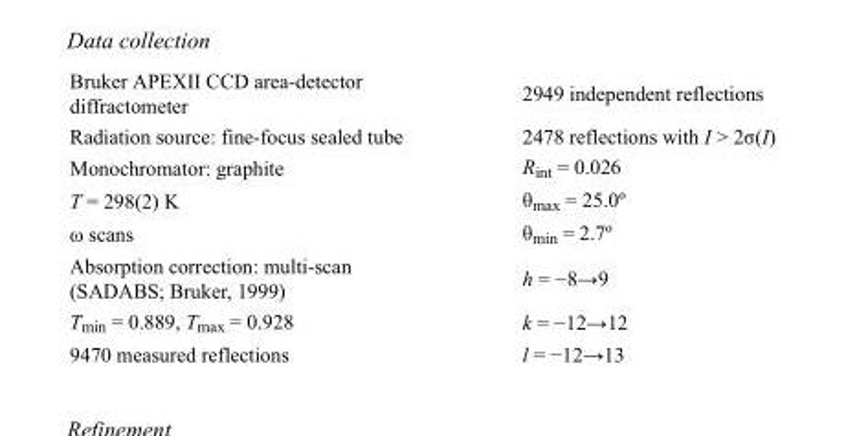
<table><tbody><tr><td>Bruker APEXII CCD area-detector diffractometer</td><td>2949 independent reflections</td></tr><tr><td>Radiation source: fine-focus sealed tube</td><td>2478 reflections with I &gt; 2σ(I)</td></tr><tr><td>Monochromator: graphite</td><td>R<sub>int</sub> = 0.026</td></tr><tr><td>T = 298(2) K</td><td>θ<sub>max</sub> = 25.0º</td></tr><tr><td>ω scans</td><td>θ<sub>min</sub> = 2.7º</td></tr><tr><td>Absorption correction: multi-scan (SADABS; Bruker, 1999)</td><td>h = −8→9</td></tr><tr><td>T<sub>min</sub> = 0.889, T<sub>max</sub> = 0.928</td><td>k = −12→12</td></tr><tr><td>9470 measured reflections</td><td>l = −12→13</td></tr></tbody></table>